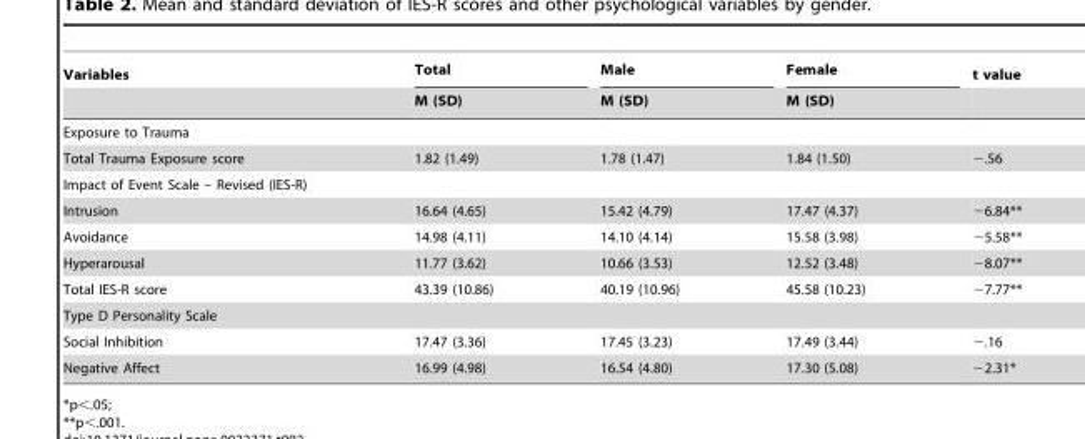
<table><thead><tr><td rowspan="2">Variables</td><td rowspan="2">Total M (SD)</td><td rowspan="2">Male M (SD)</td><td rowspan="2">Female M (SD)</td><td rowspan="2">t value</td></tr><tr></tr></thead><tbody><tr><td colspan="5">Exposure to Trauma</td></tr><tr><td>Total Trauma Exposure score</td><td>1.82 (1.49)</td><td>1.78 (1.47)</td><td>1.84 (1.50)</td><td>−.56</td></tr><tr><td colspan="5">Impact of Event Scale – Revised (IES-R)</td></tr><tr><td>Intrusion</td><td>16.64 (4.65)</td><td>15.42 (4.79)</td><td>17.47 (4.37)</td><td>−6.84**</td></tr><tr><td>Avoidance</td><td>14.98 (4.11)</td><td>14.10 (4.14)</td><td>15.58 (3.98)</td><td>−5.58**</td></tr><tr><td>Hyperarousal</td><td>11.77 (3.62)</td><td>10.66 (3.53)</td><td>12.52 (3.48)</td><td>−8.07**</td></tr><tr><td>Total IES-R score</td><td>43.39 (10.86)</td><td>40.19 (10.96)</td><td>45.58 (10.23)</td><td>−7.77**</td></tr><tr><td colspan="5">Type D Personality Scale</td></tr><tr><td>Social Inhibition</td><td>17.47 (3.36)</td><td>17.45 (3.23)</td><td>17.49 (3.44)</td><td>−.16</td></tr><tr><td>Negative Affect</td><td>16.99 (4.98)</td><td>16.54 (4.80)</td><td>17.30 (5.08)</td><td>−2.31*</td></tr></tbody></table>